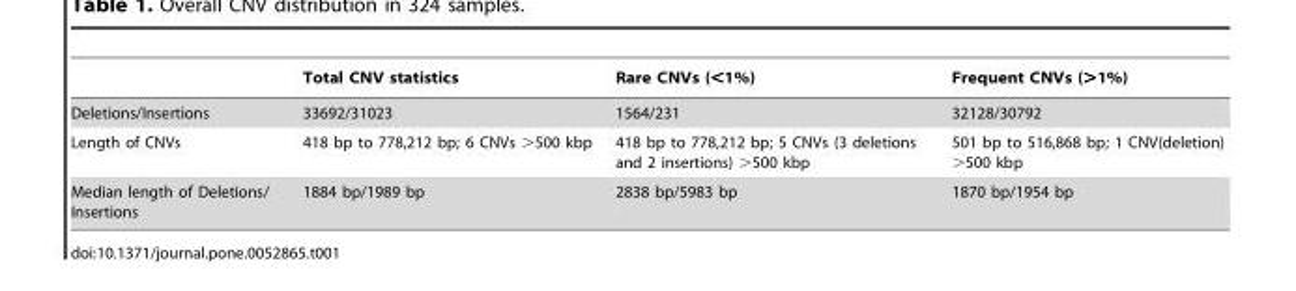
<table><thead><tr><td></td><td>Total CNV statistics</td><td>Rare CNVs (&lt;1%)</td><td>Frequent CNVs (&gt;1%)</td></tr></thead><tbody><tr><td>Deletions/Insertions</td><td>33692/31023</td><td>1564/231</td><td>32128/30792</td></tr><tr><td>Length of CNVs</td><td>418 bp to 778,212 bp; 6 CNVs &gt;500 kbp</td><td>418 bp to 778,212 bp; 5 CNVs (3 deletions and 2 insertions) &gt;500 kbp</td><td>501 bp to 516,868 bp; 1 CNV(deletion) &gt;500 kbp</td></tr><tr><td>Median length of Deletions/ Insertions</td><td>1884 bp/1989 bp</td><td>2838 bp/5983 bp</td><td>1870 bp/1954 bp</td></tr></tbody></table>